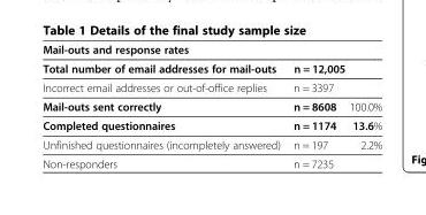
<table><thead><tr><td colspan="3">Mail-outs and response rates</td></tr><tr><td>Total number of email addresses for mail-outs</td><td>n = 12,005</td><td></td></tr></thead><tbody><tr><td>Incorrect email addresses or out-of-office replies</td><td>n = 3397</td><td></td></tr><tr><td>Mail-outs sent correctly</td><td>n = 8608</td><td>100.0%</td></tr><tr><td>Completed questionnaires</td><td>n = 1174</td><td>13.6%</td></tr><tr><td>Unfinished questionnaires (incompletely answered)</td><td>n = 197</td><td>2.2%</td></tr><tr><td>Non-responders</td><td>n = 7235</td><td></td></tr></tbody></table>